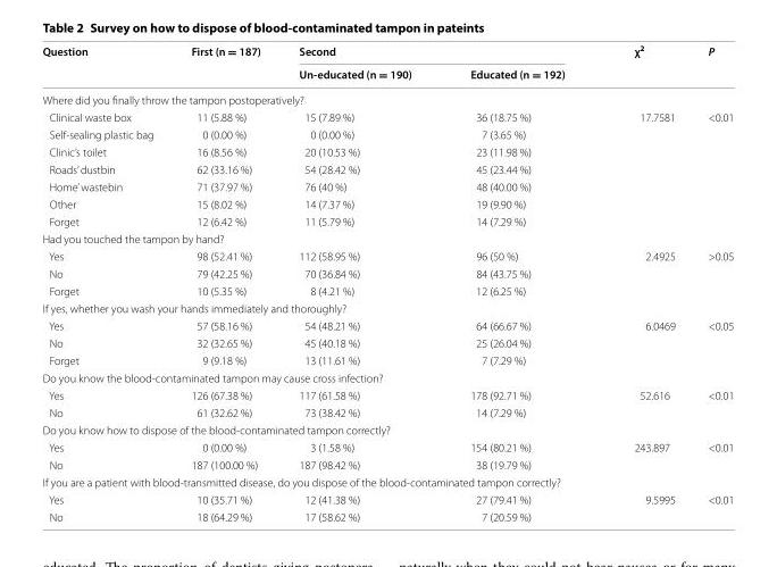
<table><thead><tr><td rowspan="2">Question</td><td rowspan="2">First (n = 187)</td><td colspan="2">Second</td><td rowspan="2">χ<sup>2</sup></td><td rowspan="2">P</td></tr><tr><td>Un-educated (n = 190)</td><td>Educated (n = 192)</td></tr></thead><tbody><tr><td colspan="6">Where did you finally throw the tampon postoperatively?</td></tr><tr><td>Clinical waste box</td><td>11 (5.88 %)</td><td>15 (7.89 %)</td><td>36 (18.75 %)</td><td>17.7581</td><td>&lt;0.01</td></tr><tr><td>Self‑sealing plastic bag</td><td>0 (0.00 %)</td><td>0 (0.00 %)</td><td>7 (3.65 %)</td><td></td><td></td></tr><tr><td>Clinic’s toilet</td><td>16 (8.56 %)</td><td>20 (10.53 %)</td><td>23 (11.98 %)</td><td></td><td></td></tr><tr><td>Roads’ dustbin</td><td>62 (33.16 %)</td><td>54 (28.42 %)</td><td>45 (23.44 %)</td><td></td><td></td></tr><tr><td>Home’ wastebin</td><td>71 (37.97 %)</td><td>76 (40 %)</td><td>48 (40.00 %)</td><td></td><td></td></tr><tr><td>Other</td><td>15 (8.02 %)</td><td>14 (7.37 %)</td><td>19 (9.90 %)</td><td></td><td></td></tr><tr><td>Forget</td><td>12 (6.42 %)</td><td>11 (5.79 %)</td><td>14 (7.29 %)</td><td></td><td></td></tr><tr><td colspan="6">Had you touched the tampon by hand?</td></tr><tr><td>Yes</td><td>98 (52.41 %)</td><td>112 (58.95 %)</td><td>96 (50 %)</td><td>2.4925</td><td>&gt;0.05</td></tr><tr><td>No</td><td>79 (42.25 %)</td><td>70 (36.84 %)</td><td>84 (43.75 %)</td><td></td><td></td></tr><tr><td>Forget</td><td>10 (5.35 %)</td><td>8 (4.21 %)</td><td>12 (6.25 %)</td><td></td><td></td></tr><tr><td colspan="6">If yes, whether you wash your hands immediately and thoroughly?</td></tr><tr><td>Yes</td><td>57 (58.16 %)</td><td>54 (48.21 %)</td><td>64 (66.67 %)</td><td>6.0469</td><td>&lt;0.05</td></tr><tr><td>No</td><td>32 (32.65 %)</td><td>45 (40.18 %)</td><td>25 (26.04 %)</td><td></td><td></td></tr><tr><td>Forget</td><td>9 (9.18 %)</td><td>13 (11.61 %)</td><td>7 (7.29 %)</td><td></td><td></td></tr><tr><td colspan="6">Do you know the blood‑contaminated tampon may cause cross infection?</td></tr><tr><td>Yes</td><td>126 (67.38 %)</td><td>117 (61.58 %)</td><td>178 (92.71 %)</td><td>52.616</td><td>&lt;0.01</td></tr><tr><td>No</td><td>61 (32.62 %)</td><td>73 (38.42 %)</td><td>14 (7.29 %)</td><td></td><td></td></tr><tr><td colspan="6">Do you know how to dispose of the blood‑contaminated tampon correctly?</td></tr><tr><td>Yes</td><td>0 (0.00 %)</td><td>3 (1.58 %)</td><td>154 (80.21 %)</td><td>243.897</td><td>&lt;0.01</td></tr><tr><td>No</td><td>187 (100.00 %)</td><td>187 (98.42 %)</td><td>38 (19.79 %)</td><td></td><td></td></tr><tr><td colspan="6">If you are a patient with blood‑transmitted disease, do you dispose of the blood‑contaminated tampon correctly?</td></tr><tr><td>Yes</td><td>10 (35.71 %)</td><td>12 (41.38 %)</td><td>27 (79.41 %)</td><td>9.5995</td><td>&lt;0.01</td></tr><tr><td>No</td><td>18 (64.29 %)</td><td>17 (58.62 %)</td><td>7 (20.59 %)</td><td></td><td></td></tr></tbody></table>